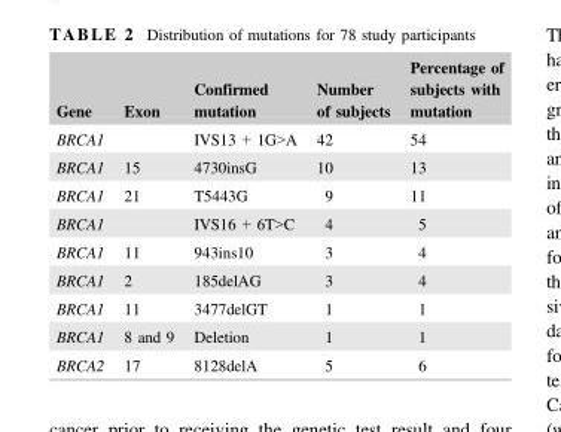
<table><thead><tr><td>Gene</td><td>Exon</td><td>Confirmed mutation</td><td>Number of subjects</td><td>Percentage of subjects with mutation</td></tr></thead><tbody><tr><td>BRCA1</td><td></td><td>IVS13 + 1G&gt;A</td><td>42</td><td>54</td></tr><tr><td>BRCA1</td><td>15</td><td>4730insG</td><td>10</td><td>13</td></tr><tr><td>BRCA1</td><td>21</td><td>T5443G</td><td>9</td><td>11</td></tr><tr><td>BRCA1</td><td></td><td>IVS16 + 6T&gt;C</td><td>4</td><td>5</td></tr><tr><td>BRCA1</td><td>11</td><td>943ins10</td><td>3</td><td>4</td></tr><tr><td>BRCA1</td><td>2</td><td>185delAG</td><td>3</td><td>4</td></tr><tr><td>BRCA1</td><td>11</td><td>3477delGT</td><td>1</td><td>1</td></tr><tr><td>BRCA1</td><td>8 and 9</td><td>Deletion</td><td>1</td><td>1</td></tr><tr><td>BRCA2</td><td>17</td><td>8128delA</td><td>5</td><td>6</td></tr></tbody></table>